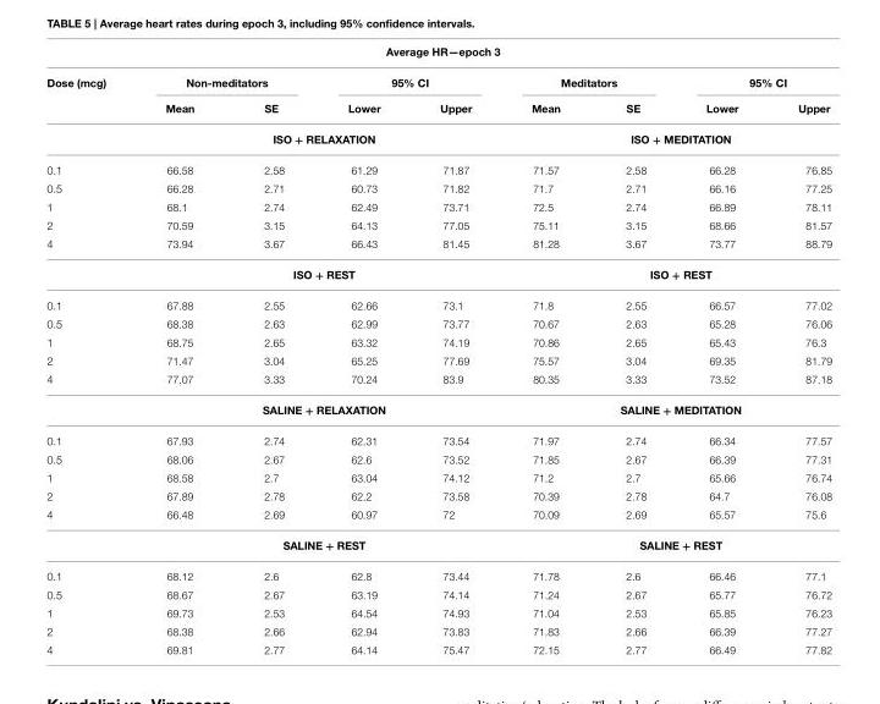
<table><thead><tr><td colspan="9">Average HR—epoch 3</td></tr><tr><td rowspan="2">Dose (mcg)</td><td colspan="2">Non-meditators</td><td colspan="2">95% CI</td><td colspan="2">Meditators</td><td colspan="2">95% CI</td></tr><tr><td>Mean</td><td>SE</td><td>Lower</td><td>Upper</td><td>Mean</td><td>SE</td><td>Lower</td><td>Upper</td></tr></thead><tbody><tr><td colspan="5">ISO + RELAXATION</td><td colspan="4">ISO + MEDITATION</td></tr><tr><td>0.1</td><td>66.58</td><td>2.58</td><td>61.29</td><td>71.87</td><td>71.57</td><td>2.58</td><td>66.28</td><td>76.85</td></tr><tr><td>0.5</td><td>66.28</td><td>2.71</td><td>60.73</td><td>71.82</td><td>71.7</td><td>2.71</td><td>66.16</td><td>77.25</td></tr><tr><td>1</td><td>68.1</td><td>2.74</td><td>62.49</td><td>73.71</td><td>72.5</td><td>2.74</td><td>66.89</td><td>78.11</td></tr><tr><td>2</td><td>70.59</td><td>3.15</td><td>64.13</td><td>77.05</td><td>75.11</td><td>3.15</td><td>68.66</td><td>81.57</td></tr><tr><td>4</td><td>73.94</td><td>3.67</td><td>66.43</td><td>81.45</td><td>81.28</td><td>3.67</td><td>73.77</td><td>88.79</td></tr><tr><td colspan="5">ISO + REST</td><td colspan="4">ISO + REST</td></tr><tr><td>0.1</td><td>67.88</td><td>2.55</td><td>62.66</td><td>73.1</td><td>71.8</td><td>2.55</td><td>66.57</td><td>77.02</td></tr><tr><td>0.5</td><td>68.38</td><td>2.63</td><td>62.99</td><td>73.77</td><td>70.67</td><td>2.63</td><td>65.28</td><td>76.06</td></tr><tr><td>1</td><td>68.75</td><td>2.65</td><td>63.32</td><td>74.19</td><td>70.86</td><td>2.65</td><td>65.43</td><td>76.3</td></tr><tr><td>2</td><td>71.47</td><td>3.04</td><td>65.25</td><td>77.69</td><td>75.57</td><td>3.04</td><td>69.35</td><td>81.79</td></tr><tr><td>4</td><td>77.07</td><td>3.33</td><td>70.24</td><td>83.9</td><td>80.35</td><td>3.33</td><td>73.52</td><td>87.18</td></tr><tr><td colspan="5">SALINE + RELAXATION</td><td colspan="4">SALINE + MEDITATION</td></tr><tr><td>0.1</td><td>67.93</td><td>2.74</td><td>62.31</td><td>73.54</td><td>71.97</td><td>2.74</td><td>66.34</td><td>77.57</td></tr><tr><td>0.5</td><td>68.06</td><td>2.67</td><td>62.6</td><td>73.52</td><td>71.85</td><td>2.67</td><td>66.39</td><td>77.31</td></tr><tr><td>1</td><td>68.58</td><td>2.7</td><td>63.04</td><td>74.12</td><td>71.2</td><td>2.7</td><td>65.66</td><td>76.74</td></tr><tr><td>2</td><td>67.89</td><td>2.78</td><td>62.2</td><td>73.58</td><td>70.39</td><td>2.78</td><td>64.7</td><td>76.08</td></tr><tr><td>4</td><td>66.48</td><td>2.69</td><td>60.97</td><td>72</td><td>70.09</td><td>2.69</td><td>65.57</td><td>75.6</td></tr><tr><td colspan="5">SALINE + REST</td><td colspan="4">SALINE + REST</td></tr><tr><td>0.1</td><td>68.12</td><td>2.6</td><td>62.8</td><td>73.44</td><td>71.78</td><td>2.6</td><td>66.46</td><td>77.1</td></tr><tr><td>0.5</td><td>68.67</td><td>2.67</td><td>63.19</td><td>74.14</td><td>71.24</td><td>2.67</td><td>65.77</td><td>76.72</td></tr><tr><td>1</td><td>69.73</td><td>2.53</td><td>64.54</td><td>74.93</td><td>71.04</td><td>2.53</td><td>65.85</td><td>76.23</td></tr><tr><td>2</td><td>68.38</td><td>2.66</td><td>62.94</td><td>73.83</td><td>71.83</td><td>2.66</td><td>66.39</td><td>77.27</td></tr><tr><td>4</td><td>69.81</td><td>2.77</td><td>64.14</td><td>75.47</td><td>72.15</td><td>2.77</td><td>66.49</td><td>77.82</td></tr></tbody></table>